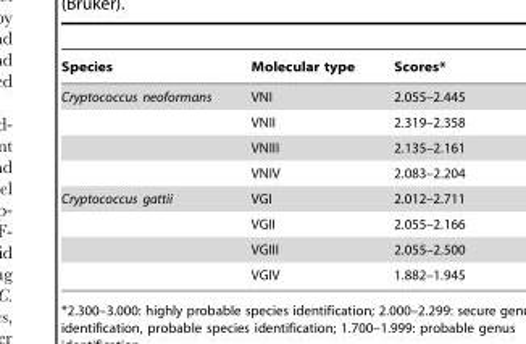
<table><thead><tr><td>Species</td><td>Molecular type</td><td>Scores*</td></tr></thead><tbody><tr><td rowspan="4">Cryptococcus neoformans</td><td>VNI</td><td>2.055–2.445</td></tr><tr><td>VNII</td><td>2.319–2.358</td></tr><tr><td>VNIII</td><td>2.135–2.161</td></tr><tr><td>VNIV</td><td>2.083–2.204</td></tr><tr><td rowspan="4">Cryptococcus gattii</td><td>VGI</td><td>2.012–2.711</td></tr><tr><td>VGII</td><td>2.055–2.166</td></tr><tr><td>VGIII</td><td>2.055–2.500</td></tr><tr><td>VGIV</td><td>1.882–1.945</td></tr></tbody></table>